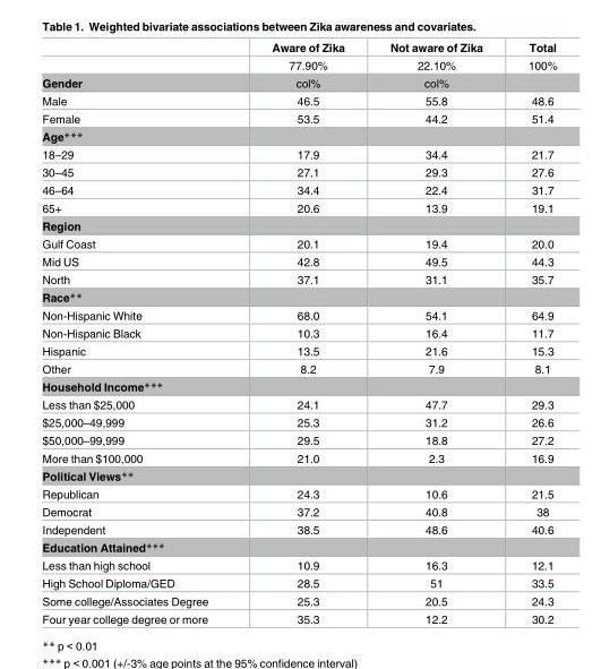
<table><thead><tr><td></td><td>Aware of Zika</td><td>Not aware of Zika</td><td>Total</td></tr></thead><tbody><tr><td></td><td>77.90%</td><td>22.10%</td><td>100%</td></tr><tr><td>Gender</td><td>col%</td><td>col%</td><td></td></tr><tr><td>Male</td><td>46.5</td><td>55.8</td><td>48.6</td></tr><tr><td>Female</td><td>53.5</td><td>44.2</td><td>51.4</td></tr><tr><td colspan="4">Age***</td></tr><tr><td>18–29</td><td>17.9</td><td>34.4</td><td>21.7</td></tr><tr><td>30–45</td><td>27.1</td><td>29.3</td><td>27.6</td></tr><tr><td>46–64</td><td>34.4</td><td>22.4</td><td>31.7</td></tr><tr><td>65+</td><td>20.6</td><td>13.9</td><td>19.1</td></tr><tr><td colspan="4">Region</td></tr><tr><td>Gulf Coast</td><td>20.1</td><td>19.4</td><td>20.0</td></tr><tr><td>Mid US</td><td>42.8</td><td>49.5</td><td>44.3</td></tr><tr><td>North</td><td>37.1</td><td>31.1</td><td>35.7</td></tr><tr><td colspan="4">Race**</td></tr><tr><td>Non-Hispanic White</td><td>68.0</td><td>54.1</td><td>64.9</td></tr><tr><td>Non-Hispanic Black</td><td>10.3</td><td>16.4</td><td>11.7</td></tr><tr><td>Hispanic</td><td>13.5</td><td>21.6</td><td>15.3</td></tr><tr><td>Other</td><td>8.2</td><td>7.9</td><td>8.1</td></tr><tr><td colspan="4">Household Income***</td></tr><tr><td>Less than $25,000</td><td>24.1</td><td>47.7</td><td>29.3</td></tr><tr><td>$25,000–49,999</td><td>25.3</td><td>31.2</td><td>26.6</td></tr><tr><td>$50,000–99,999</td><td>29.5</td><td>18.8</td><td>27.2</td></tr><tr><td>More than $100,000</td><td>21.0</td><td>2.3</td><td>16.9</td></tr><tr><td colspan="4">Political Views**</td></tr><tr><td>Republican</td><td>24.3</td><td>10.6</td><td>21.5</td></tr><tr><td>Democrat</td><td>37.2</td><td>40.8</td><td>38</td></tr><tr><td>Independent</td><td>38.5</td><td>48.6</td><td>40.6</td></tr><tr><td colspan="4">Education Attained***</td></tr><tr><td>Less than high school</td><td>10.9</td><td>16.3</td><td>12.1</td></tr><tr><td>High School Diploma/GED</td><td>28.5</td><td>51</td><td>33.5</td></tr><tr><td>Some college/Associates Degree</td><td>25.3</td><td>20.5</td><td>24.3</td></tr><tr><td>Four year college degree or more</td><td>35.3</td><td>12.2</td><td>30.2</td></tr></tbody></table>